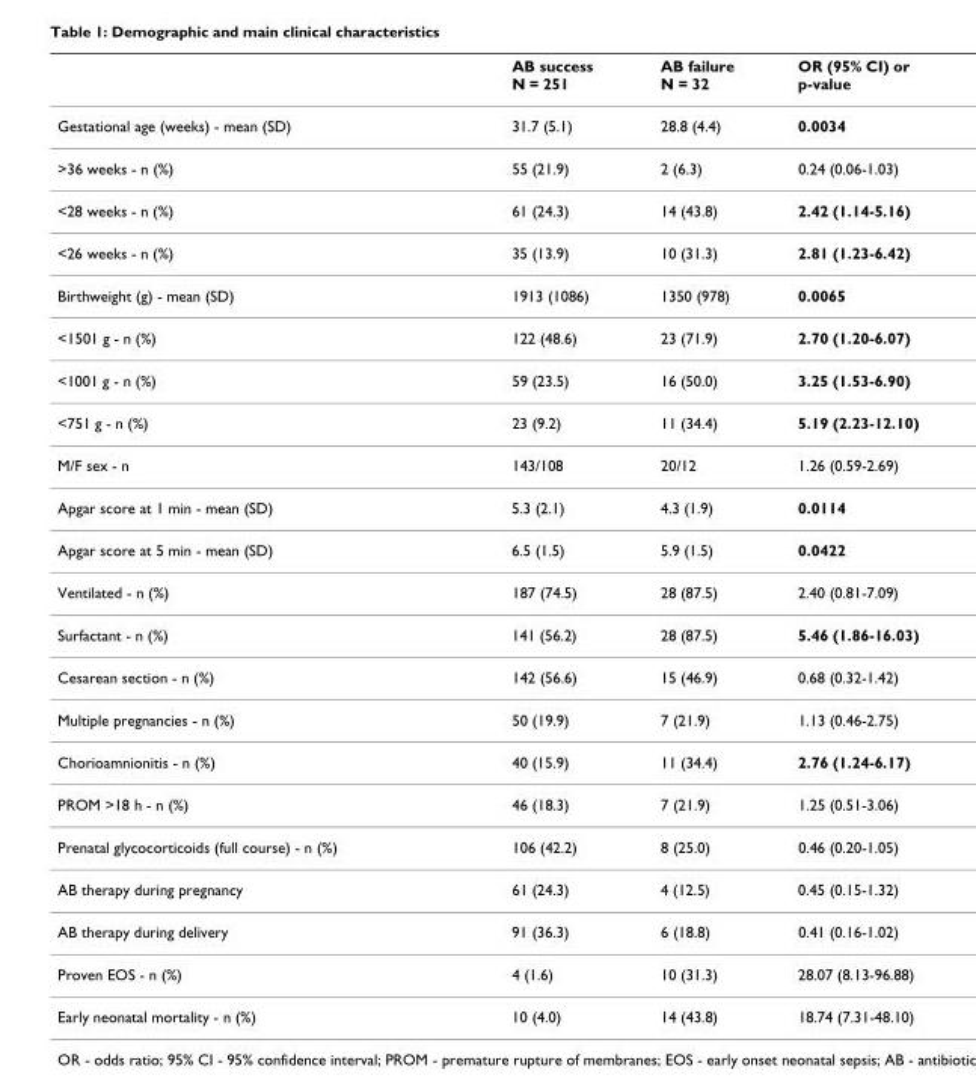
<table><thead><tr><td></td><td>AB success N = 251</td><td>AB failure N = 32</td><td>OR (95% CI) or p-value</td></tr></thead><tbody><tr><td>Gestational age (weeks) - mean (SD)</td><td>31.7 (5.1)</td><td>28.8 (4.4)</td><td>0.0034</td></tr><tr><td>&gt;36 weeks - n (%)</td><td>55 (21.9)</td><td>2 (6.3)</td><td>0.24 (0.06-1.03)</td></tr><tr><td>&lt;28 weeks - n (%)</td><td>61 (24.3)</td><td>14 (43.8)</td><td>2.42 (1.14-5.16)</td></tr><tr><td>&lt;26 weeks - n (%)</td><td>35 (13.9)</td><td>10 (31.3)</td><td>2.81 (1.23-6.42)</td></tr><tr><td>Birthweight (g) - mean (SD)</td><td>1913 (1086)</td><td>1350 (978)</td><td>0.0065</td></tr><tr><td>&lt;1501 g - n (%)</td><td>122 (48.6)</td><td>23 (71.9)</td><td>2.70 (1.20-6.07)</td></tr><tr><td>&lt;1001 g - n (%)</td><td>59 (23.5)</td><td>16 (50.0)</td><td>3.25 (1.53-6.90)</td></tr><tr><td>&lt;751 g - n (%)</td><td>23 (9.2)</td><td>11 (34.4)</td><td>5.19 (2.23-12.10)</td></tr><tr><td>M/F sex - n</td><td>143/108</td><td>20/12</td><td>1.26 (0.59-2.69)</td></tr><tr><td>Apgar score at 1 min - mean (SD)</td><td>5.3 (2.1)</td><td>4.3 (1.9)</td><td>0.0114</td></tr><tr><td>Apgar score at 5 min - mean (SD)</td><td>6.5 (1.5)</td><td>5.9 (1.5)</td><td>0.0422</td></tr><tr><td>Ventilated - n (%)</td><td>187 (74.5)</td><td>28 (87.5)</td><td>2.40 (0.81-7.09)</td></tr><tr><td>Surfactant - n (%)</td><td>141 (56.2)</td><td>28 (87.5)</td><td>5.46 (1.86-16.03)</td></tr><tr><td>Cesarean section - n (%)</td><td>142 (56.6)</td><td>15 (46.9)</td><td>0.68 (0.32-1.42)</td></tr><tr><td>Multiple pregnancies - n (%)</td><td>50 (19.9)</td><td>7 (21.9)</td><td>1.13 (0.46-2.75)</td></tr><tr><td>Chorioamnionitis - n (%)</td><td>40 (15.9)</td><td>11 (34.4)</td><td>2.76 (1.24-6.17)</td></tr><tr><td>PROM &gt;18 h - n (%)</td><td>46 (18.3)</td><td>7 (21.9)</td><td>1.25 (0.51-3.06)</td></tr><tr><td>Prenatal glycocorticoids (full course) - n (%)</td><td>106 (42.2)</td><td>8 (25.0)</td><td>0.46 (0.20-1.05)</td></tr><tr><td>AB therapy during pregnancy</td><td>61 (24.3)</td><td>4 (12.5)</td><td>0.45 (0.15-1.32)</td></tr><tr><td>AB therapy during delivery</td><td>91 (36.3)</td><td>6 (18.8)</td><td>0.41 (0.16-1.02)</td></tr><tr><td>Proven EOS - n (%)</td><td>4 (1.6)</td><td>10 (31.3)</td><td>28.07 (8.13-96.88)</td></tr><tr><td>Early neonatal mortality - n (%)</td><td>10 (4.0)</td><td>14 (43.8)</td><td>18.74 (7.31-48.10)</td></tr></tbody></table>